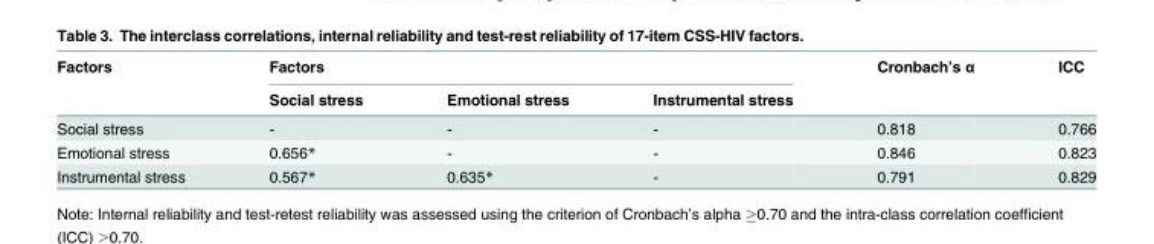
<table><thead><tr><td rowspan="2">Factors</td><td colspan="3">Factors</td><td rowspan="2">Cronbach’s α</td><td rowspan="2">ICC</td></tr><tr><td>Social stress</td><td>Emotional stress</td><td>Instrumental stress</td></tr></thead><tbody><tr><td>Social stress</td><td>-</td><td>-</td><td>-</td><td>0.818</td><td>0.766</td></tr><tr><td>Emotional stress</td><td>0.656*</td><td>-</td><td>-</td><td>0.846</td><td>0.823</td></tr><tr><td>Instrumental stress</td><td>0.567*</td><td>0.635*</td><td>-</td><td>0.791</td><td>0.829</td></tr></tbody></table>